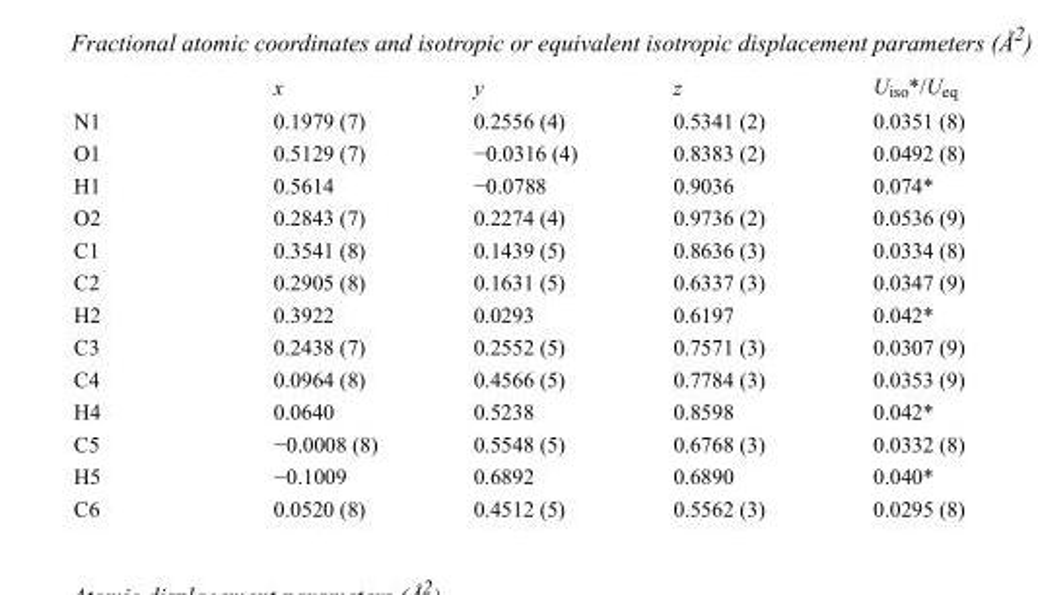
<table><thead><tr><td></td><td>x</td><td>y</td><td>z</td><td>U<sub>iso</sub>*/U<sub>eq</sub></td></tr></thead><tbody><tr><td>N1</td><td>0.1979 (7)</td><td>0.2556 (4)</td><td>0.5341 (2)</td><td>0.0351 (8)</td></tr><tr><td>O1</td><td>0.5129 (7)</td><td>−0.0316 (4)</td><td>0.8383 (2)</td><td>0.0492 (8)</td></tr><tr><td>H1</td><td>0.5614</td><td>−0.0788</td><td>0.9036</td><td>0.074*</td></tr><tr><td>O2</td><td>0.2843 (7)</td><td>0.2274 (4)</td><td>0.9736 (2)</td><td>0.0536 (9)</td></tr><tr><td>C1</td><td>0.3541 (8)</td><td>0.1439 (5)</td><td>0.8636 (3)</td><td>0.0334 (8)</td></tr><tr><td>C2</td><td>0.2905 (8)</td><td>0.1631 (5)</td><td>0.6337 (3)</td><td>0.0347 (9)</td></tr><tr><td>H2</td><td>0.3922</td><td>0.0293</td><td>0.6197</td><td>0.042*</td></tr><tr><td>C3</td><td>0.2438 (7)</td><td>0.2552 (5)</td><td>0.7571 (3)</td><td>0.0307 (9)</td></tr><tr><td>C4</td><td>0.0964 (8)</td><td>0.4566 (5)</td><td>0.7784 (3)</td><td>0.0353 (9)</td></tr><tr><td>H4</td><td>0.0640</td><td>0.5238</td><td>0.8598</td><td>0.042*</td></tr><tr><td>C5</td><td>−0.0008 (8)</td><td>0.5548 (5)</td><td>0.6768 (3)</td><td>0.0332 (8)</td></tr><tr><td>H5</td><td>−0.1009</td><td>0.6892</td><td>0.6890</td><td>0.040*</td></tr><tr><td>C6</td><td>0.0520 (8)</td><td>0.4512 (5)</td><td>0.5562 (3)</td><td>0.0295 (8)</td></tr></tbody></table>